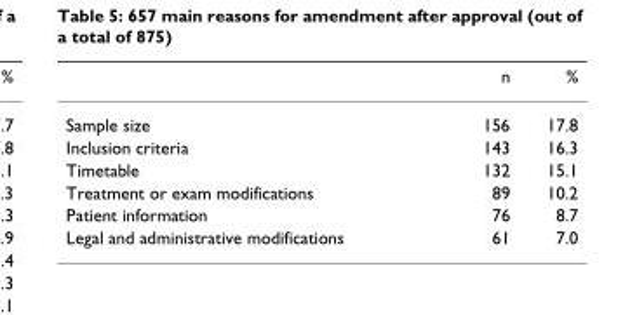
<table><thead><tr><td></td><td>n</td><td>%</td></tr></thead><tbody><tr><td>Sample size</td><td>156</td><td>17.8</td></tr><tr><td>Inclusion criteria</td><td>143</td><td>16.3</td></tr><tr><td>Timetable</td><td>132</td><td>15.1</td></tr><tr><td>Treatment or exam modifications</td><td>89</td><td>10.2</td></tr><tr><td>Patient information</td><td>76</td><td>8.7</td></tr><tr><td>Legal and administrative modifications</td><td>61</td><td>7.0</td></tr></tbody></table>